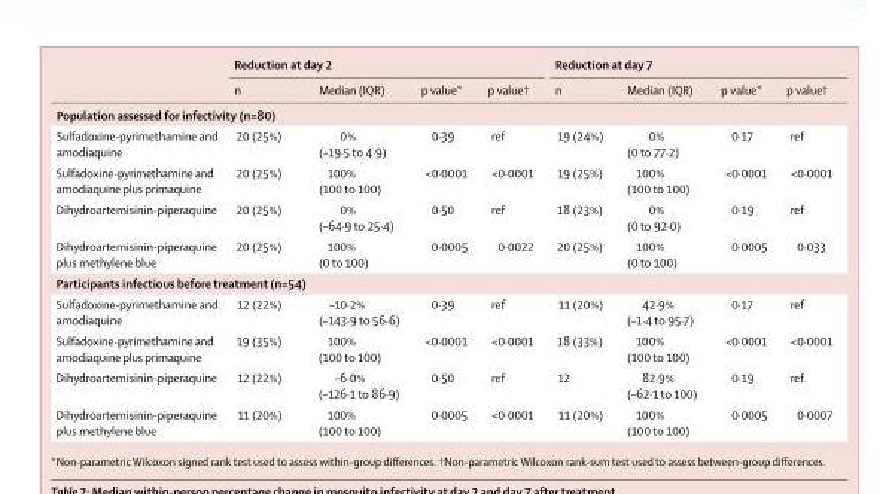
<table><thead><tr><td rowspan="2"></td><td colspan="4">Reduction at day 2</td><td colspan="4">Reduction at day 7</td></tr><tr><td>n</td><td>Median (IQR)</td><td>p value*</td><td>p value†</td><td>n</td><td>Median (IQR)</td><td>p value*</td><td>p value†</td></tr></thead><tbody><tr><td colspan="9">Population assessed for infectivity (n=80)</td></tr><tr><td>Sulfadoxine-pyrimethamine and amodiaquine</td><td>20 (25%)</td><td>0% (–19·5 to 4·9)</td><td>0·39</td><td>ref</td><td>19 (24%)</td><td>0% (0 to 77·2)</td><td>0·17</td><td>ref</td></tr><tr><td>Sulfadoxine-pyrimethamine and amodiaquine plus primaquine</td><td>20 (25%)</td><td>100% (100 to 100)</td><td>&lt;0·0001</td><td>&lt;0·0001</td><td>19 (25%)</td><td>100% (100 to 100)</td><td>&lt;0·0001</td><td>&lt;0·0001</td></tr><tr><td>Dihydroartemisinin-piperaquine</td><td>20 (25%)</td><td>0% (–64·9 to 25·4)</td><td>0·50</td><td>ref</td><td>18 (23%)</td><td>0% (0 to 92·0)</td><td>0·19</td><td>ref</td></tr><tr><td>Dihydroartemisinin-piperaquine plus methylene blue</td><td>20 (25%)</td><td>100% (0 to 100)</td><td>0·0005</td><td>0·0022</td><td>20 (25%)</td><td>100% (0 to 100)</td><td>0·0005</td><td>0·033</td></tr><tr><td colspan="9">Participants infectious before treatment (n=54)</td></tr><tr><td>Sulfadoxine-pyrimethamine and amodiaquine</td><td>12 (22%)</td><td>–10·2% (–143·9 to 56·6)</td><td>0·39</td><td>ref</td><td>11 (20%)</td><td>42·9% (–1·4 to 95·7)</td><td>0·17</td><td>ref</td></tr><tr><td>Sulfadoxine-pyrimethamine and amodiaquine plus primaquine</td><td>19 (35%)</td><td>100% (100 to 100)</td><td>&lt;0·0001</td><td>&lt;0·0001</td><td>18 (33%)</td><td>100% (100 to 100)</td><td>&lt;0·0001</td><td>&lt;0·0001</td></tr><tr><td>Dihydroartemisinin-piperaquine</td><td>12 (22%)</td><td>–6·0% (–126·1 to 86·9)</td><td>0·50</td><td>ref</td><td>12</td><td>82·9% (–62·1 to 100)</td><td>0·19</td><td>ref</td></tr><tr><td>Dihydroartemisinin-piperaquine plus methylene blue</td><td>11 (20%)</td><td>100% (100 to 100)</td><td>0·0005</td><td>&lt;0·0001</td><td>11 (20%)</td><td>100% (100 to 100)</td><td>0·0005</td><td>0·0007</td></tr></tbody></table>